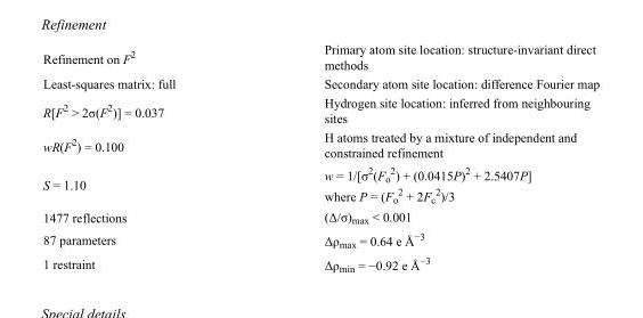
<table><tbody><tr><td>Refinement on F<sup>2</sup></td><td>Primary atom site location: structure-invariant direct methods</td></tr><tr><td>Least-squares matrix: full</td><td>Secondary atom site location: difference Fourier map</td></tr><tr><td>R[F<sup>2</sup> &gt; 2σ(F<sup>2</sup>)] = 0.037</td><td>Hydrogen site location: inferred from neighbouring sites</td></tr><tr><td>wR(F<sup>2</sup>) = 0.100</td><td>H atoms treated by a mixture of independent and constrained refinement</td></tr><tr><td>S = 1.10</td><td>w = 1/[σ<sup>2</sup>(F<sub>o</sub> <sup>2</sup>) + (0.0415P)<sup>2</sup> + 2.5407P] where P = (F<sub>o</sub> <sup>2</sup> + 2F<sub>c</sub> <sup>2</sup>)/3</td></tr><tr><td>1477 reflections</td><td>(Δ/σ)<sub>max</sub> &lt; 0.001</td></tr><tr><td>87 parameters</td><td>Δρ<sub>max</sub> = 0.64 e Å<sup>−3</sup></td></tr><tr><td>1 restraint</td><td>Δρ<sub>min</sub> = −0.92 e Å<sup>−3</sup></td></tr></tbody></table>